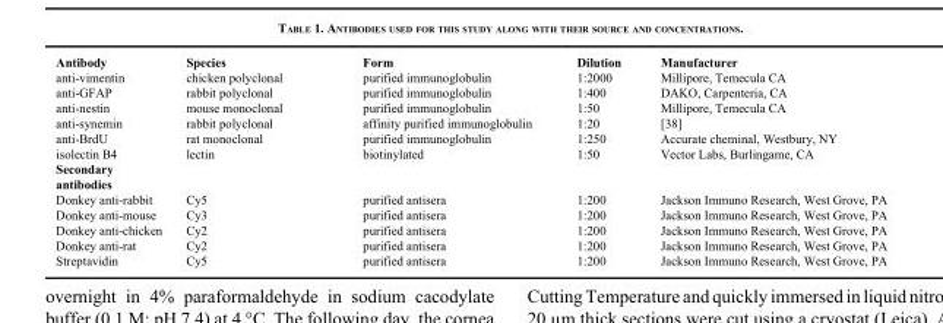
<table><thead><tr><td>Antibody</td><td>Species</td><td>Form</td><td>Dilution</td><td>Manufacturer</td></tr></thead><tbody><tr><td>anti-vimentin</td><td>chicken polyclonal</td><td>purified immunoglobulin</td><td>1:2000</td><td>Millipore, Temecula CA</td></tr><tr><td>anti-GFAP</td><td>rabbit polyclonal</td><td>purified immunoglobulin</td><td>1:400</td><td>DAKO, Carpenteria, CA</td></tr><tr><td>anti-nestin</td><td>mouse monoclonal</td><td>purified immunoglobulin</td><td>1:50</td><td>Millipore, Temecula CA</td></tr><tr><td>anti-synemin</td><td>rabbit polyclonal</td><td>affinity purified immunoglobulin</td><td>1:20</td><td>[38]</td></tr><tr><td>anti-BrdU</td><td>rat monoclonal</td><td>purified immunoglobulin</td><td>1:250</td><td>Accurate cheminal, Westbury, NY</td></tr><tr><td>isolectin B4</td><td>lectin</td><td>biotinylated</td><td>1:50</td><td>Vector Labs, Burlingame, CA</td></tr><tr><td colspan="5">Secondary antibodies</td></tr><tr><td>Donkey anti-rabbit</td><td>Cy5</td><td>purified antisera</td><td>1:200</td><td>Jackson Immuno Research, West Grove, PA</td></tr><tr><td>Donkey anti-mouse</td><td>Cy3</td><td>purified antisera</td><td>1:200</td><td>Jackson Immuno Research, West Grove, PA</td></tr><tr><td>Donkey anti-chicken</td><td>Cy2</td><td>purified antisera</td><td>1:200</td><td>Jackson Immuno Research, West Grove, PA</td></tr><tr><td>Donkey anti-rat</td><td>Cy2</td><td>purified antisera</td><td>1:200</td><td>Jackson Immuno Research, West Grove, PA</td></tr><tr><td>Streptavidin</td><td>Cy5</td><td>purified antisera</td><td>1:200</td><td>Jackson Immuno Research, West Grove, PA</td></tr></tbody></table>